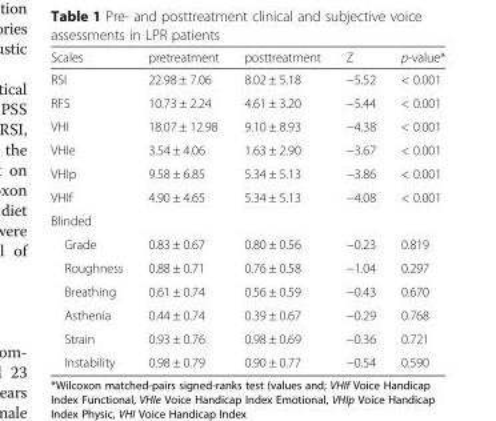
<table><thead><tr><td>Scales</td><td>pretreatment</td><td>posttreatment</td><td>Z</td><td>p-value*</td></tr></thead><tbody><tr><td>RSI</td><td>22.98 ± 7.06</td><td>8.02 ± 5.18</td><td>−5.52</td><td>&lt; 0.001</td></tr><tr><td>RFS</td><td>10.73 ± 2.24</td><td>4.61 ± 3.20</td><td>−5.44</td><td>&lt; 0.001</td></tr><tr><td>VHI</td><td>18.07 ± 12.98</td><td>9.10 ± 8.93</td><td>−4.38</td><td>&lt; 0.001</td></tr><tr><td>VHIe</td><td>3.54 ± 4.06</td><td>1.63 ± 2.90</td><td>−3.67</td><td>&lt; 0.001</td></tr><tr><td>VHIp</td><td>9.58 ± 6.85</td><td>5.34 ± 5.13</td><td>−3.86</td><td>&lt; 0.001</td></tr><tr><td>VHIf</td><td>4.90 ± 4.65</td><td>5.34 ± 5.13</td><td>−4.08</td><td>&lt; 0.001</td></tr><tr><td colspan="5">Blinded</td></tr><tr><td>Grade</td><td>0.83 ± 0.67</td><td>0.80 ± 0.56</td><td>−0.23</td><td>0.819</td></tr><tr><td>Roughness</td><td>0.88 ± 0.71</td><td>0.76 ± 0.58</td><td>−1.04</td><td>0.297</td></tr><tr><td>Breathing</td><td>0.61 ± 0.74</td><td>0.56 ± 0.59</td><td>−0.43</td><td>0.670</td></tr><tr><td>Asthenia</td><td>0.44 ± 0.74</td><td>0.39 ± 0.67</td><td>−0.29</td><td>0.768</td></tr><tr><td>Strain</td><td>0.93 ± 0.76</td><td>0.98 ± 0.69</td><td>−0.36</td><td>0.721</td></tr><tr><td>Instability</td><td>0.98 ± 0.79</td><td>0.90 ± 0.77</td><td>−0.54</td><td>0.590</td></tr></tbody></table>